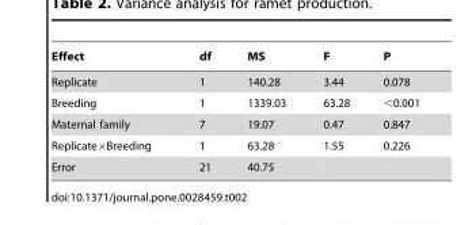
<table><thead><tr><td>Effect</td><td>df</td><td>MS</td><td>F</td><td>P</td></tr></thead><tbody><tr><td>Replicate</td><td>1</td><td>140.28</td><td>3.44</td><td>0.078</td></tr><tr><td>Breeding</td><td>1</td><td>1339.03</td><td>63.28</td><td>&lt;0.001</td></tr><tr><td>Maternal family</td><td>7</td><td>19.07</td><td>0.47</td><td>0.847</td></tr><tr><td>Replicate×Breeding</td><td>1</td><td>63.28</td><td>1.55</td><td>0.226</td></tr><tr><td>Error</td><td>21</td><td>40.75</td><td></td><td></td></tr></tbody></table>